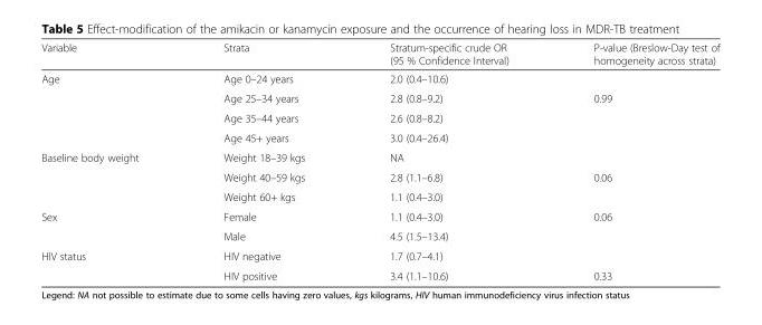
<table><thead><tr><td>Variable</td><td>Strata</td><td>Stratum-specific crude OR (95 % Confidence Interval)</td><td>P-value (Breslow-Day test of homogeneity across strata)</td></tr></thead><tbody><tr><td rowspan="4">Age</td><td>Age 0–24 years</td><td>2.0 (0.4–10.6)</td><td></td></tr><tr><td>Age 25–34 years</td><td>2.8 (0.8–9.2)</td><td>0.99</td></tr><tr><td>Age 35–44 years</td><td>2.6 (0.8–8.2)</td><td></td></tr><tr><td>Age 45+ years</td><td>3.0 (0.4–26.4)</td><td></td></tr><tr><td rowspan="3">Baseline body weight</td><td>Weight 18–39 kgs</td><td>NA</td><td></td></tr><tr><td>Weight 40–59 kgs</td><td>2.8 (1.1–6.8)</td><td>0.06</td></tr><tr><td>Weight 60+ kgs</td><td>1.1 (0.4–3.0)</td><td></td></tr><tr><td rowspan="2">Sex</td><td>Female</td><td>1.1 (0.4–3.0)</td><td>0.06</td></tr><tr><td>Male</td><td>4.5 (1.5–13.4)</td><td></td></tr><tr><td rowspan="2">HIV status</td><td>HIV negative</td><td>1.7 (0.7–4.1)</td><td></td></tr><tr><td>HIV positive</td><td>3.4 (1.1–10.6)</td><td>0.33</td></tr></tbody></table>